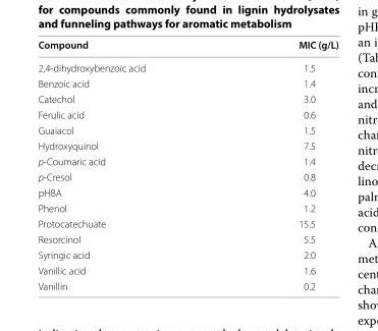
<table><thead><tr><td>Compound</td><td>MIC (g/L)</td></tr></thead><tbody><tr><td>2,4-dihydroxybenzoic acid</td><td>1.5</td></tr><tr><td>Benzoic acid</td><td>1.4</td></tr><tr><td>Catechol</td><td>3.0</td></tr><tr><td>Ferulic acid</td><td>0.6</td></tr><tr><td>Guaiacol</td><td>1.5</td></tr><tr><td>Hydroxyquinol</td><td>7.5</td></tr><tr><td>p-Coumaric acid</td><td>1.4</td></tr><tr><td>p-Cresol</td><td>0.8</td></tr><tr><td>pHBA</td><td>4.0</td></tr><tr><td>Phenol</td><td>1.2</td></tr><tr><td>Protocatechuate</td><td>15.5</td></tr><tr><td>Resorcinol</td><td>5.5</td></tr><tr><td>Syringic acid</td><td>2.0</td></tr><tr><td>Vanillic acid</td><td>1.6</td></tr><tr><td>Vanillin</td><td>0.2</td></tr></tbody></table>